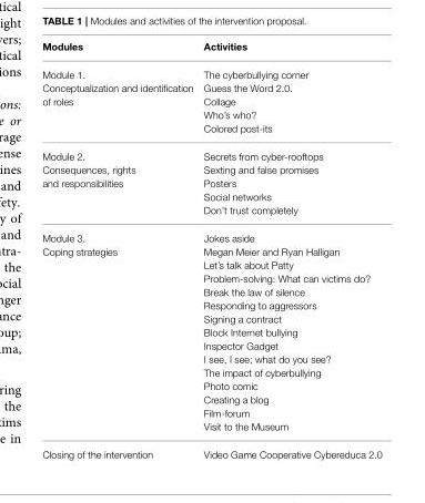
<table><thead><tr><td>Modules</td><td>Activities</td></tr></thead><tbody><tr><td>Module 1. Conceptualization and identification of roles</td><td>The cyberbullying corner Guess the Word 2.0. Collage Who’s who? Colored post-its</td></tr><tr><td>Module 2. Consequences, rights and responsibilities</td><td>Secrets from cyber-rooftops Sexting and false promises Posters Social networks Don’t trust completely</td></tr><tr><td>Module 3. Coping strategies</td><td>Jokes aside Megan Meier and Ryan Halligan Let’s talk about Patty Problem-solving: What can victims do? Break the law of silence Responding to aggressors Signing a contract Block Internet bullying Inspector Gadget I see, I see; what do you see? The impact of cyberbullying Photo comic Creating a blog Film-forum Visit to the Museum</td></tr><tr><td>Closing of the intervention</td><td>Video Game Cooperative Cybereduca 2.0</td></tr></tbody></table>